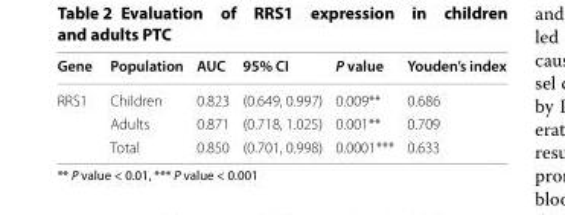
<table><thead><tr><td>Gene</td><td>Population</td><td>AUC</td><td>95% CI</td><td>P value</td><td>Youden’s index</td></tr></thead><tbody><tr><td rowspan="3">RRS1</td><td>Children</td><td>0.823</td><td>(0.649, 0.997)</td><td>0.009**</td><td>0.686</td></tr><tr><td>Adults</td><td>0.871</td><td>(0.718, 1.025)</td><td>0.001**</td><td>0.709</td></tr><tr><td>Total</td><td>0.850</td><td>(0.701, 0.998)</td><td>0.0001***</td><td>0.633</td></tr></tbody></table>